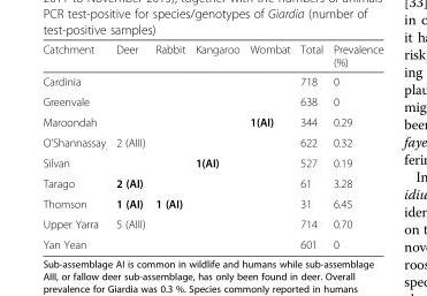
<table><thead><tr><td>Catchment</td><td>Deer</td><td>Rabbit</td><td>Kangaroo</td><td>Wombat</td><td>Total</td><td>Prevalence (%)</td></tr></thead><tbody><tr><td>Cardinia</td><td></td><td></td><td></td><td></td><td>718</td><td>0</td></tr><tr><td>Greenvale</td><td></td><td></td><td></td><td></td><td>638</td><td>0</td></tr><tr><td>Maroondah</td><td></td><td></td><td></td><td>1(AI)</td><td>344</td><td>0.29</td></tr><tr><td>O&#x27;Shannassay</td><td>2 (AIII)</td><td></td><td></td><td></td><td>622</td><td>0.32</td></tr><tr><td>Silvan</td><td></td><td></td><td>1(AI)</td><td></td><td>527</td><td>0.19</td></tr><tr><td>Tarago</td><td>2 (AI)</td><td></td><td></td><td></td><td>61</td><td>3.28</td></tr><tr><td>Thomson</td><td>1 (AI)</td><td>1 (AI)</td><td></td><td></td><td>31</td><td>6.45</td></tr><tr><td>Upper Yarra</td><td>5 (AIII)</td><td></td><td></td><td></td><td>714</td><td>0.70</td></tr><tr><td>Yan Yean</td><td></td><td></td><td></td><td></td><td>601</td><td>0</td></tr></tbody></table>